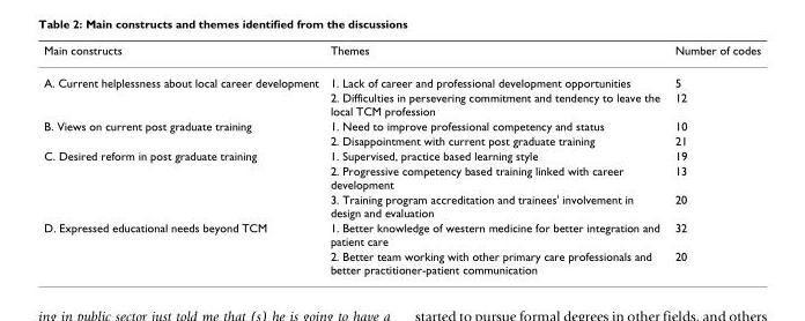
<table><thead><tr><td>Main constructs</td><td>Themes</td><td>Number of codes</td></tr></thead><tbody><tr><td rowspan="2">A. Current helplessness about local career development</td><td>1. Lack of career and professional development opportunities</td><td>5</td></tr><tr><td>2. Difficulties in persevering commitment and tendency to leave the local TCM profession</td><td>12</td></tr><tr><td rowspan="2">B. Views on current post graduate training</td><td>1. Need to improve professional competency and status</td><td>10</td></tr><tr><td>2. Disappointment with current post graduate training</td><td>21</td></tr><tr><td rowspan="3">C. Desired reform in post graduate training</td><td>1. Supervised, practice based learning style</td><td>19</td></tr><tr><td>2. Progressive competency based training linked with career development</td><td>13</td></tr><tr><td>3. Training program accreditation and trainees&#x27; involvement in design and evaluation</td><td>20</td></tr><tr><td rowspan="2">D. Expressed educational needs beyond TCM</td><td>1. Better knowledge of western medicine for better integration and patient care</td><td>32</td></tr><tr><td>2. Better team working with other primary care professionals and better practitioner-patient communication</td><td>20</td></tr></tbody></table>